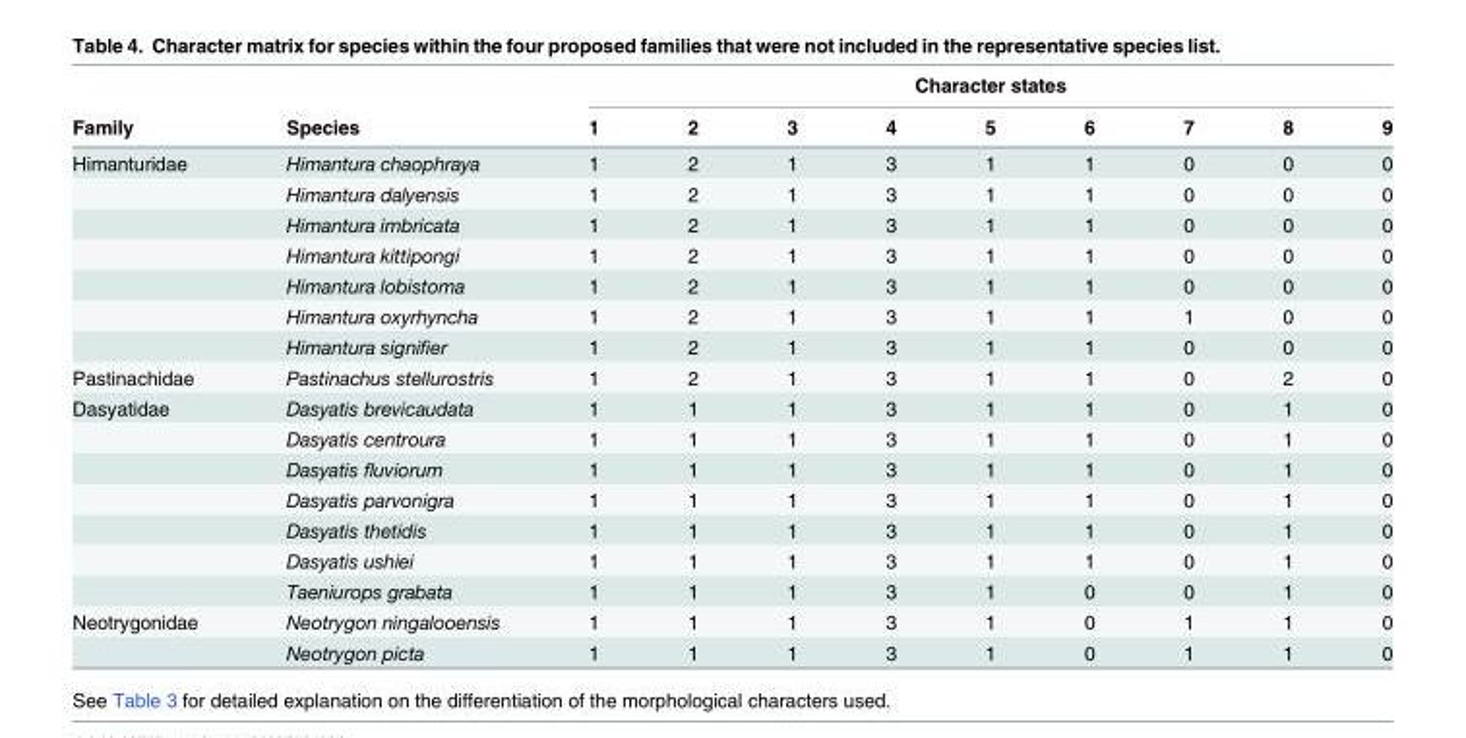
<table><thead><tr><td rowspan="2">Family</td><td rowspan="2">Species</td><td colspan="9">Character states</td></tr><tr><td>1</td><td>2</td><td>3</td><td>4</td><td>5</td><td>6</td><td>7</td><td>8</td><td>9</td></tr></thead><tbody><tr><td rowspan="7">Himanturidae</td><td>Himantura chaophraya</td><td>1</td><td>2</td><td>1</td><td>3</td><td>1</td><td>1</td><td>0</td><td>0</td><td>0</td></tr><tr><td>Himantura dalyensis</td><td>1</td><td>2</td><td>1</td><td>3</td><td>1</td><td>1</td><td>0</td><td>0</td><td>0</td></tr><tr><td>Himantura imbricata</td><td>1</td><td>2</td><td>1</td><td>3</td><td>1</td><td>1</td><td>0</td><td>0</td><td>0</td></tr><tr><td>Himantura kittipongi</td><td>1</td><td>2</td><td>1</td><td>3</td><td>1</td><td>1</td><td>0</td><td>0</td><td>0</td></tr><tr><td>Himantura lobistoma</td><td>1</td><td>2</td><td>1</td><td>3</td><td>1</td><td>1</td><td>0</td><td>0</td><td>0</td></tr><tr><td>Himantura oxyrhyncha</td><td>1</td><td>2</td><td>1</td><td>3</td><td>1</td><td>1</td><td>1</td><td>0</td><td>0</td></tr><tr><td>Himantura signifier</td><td>1</td><td>2</td><td>1</td><td>3</td><td>1</td><td>1</td><td>0</td><td>0</td><td>0</td></tr><tr><td>Pastinachidae</td><td>Pastinachus stellurostris</td><td>1</td><td>2</td><td>1</td><td>3</td><td>1</td><td>1</td><td>0</td><td>2</td><td>0</td></tr><tr><td rowspan="7">Dasyatidae</td><td>Dasyatis brevicaudata</td><td>1</td><td>1</td><td>1</td><td>3</td><td>1</td><td>1</td><td>0</td><td>1</td><td>0</td></tr><tr><td>Dasyatis centroura</td><td>1</td><td>1</td><td>1</td><td>3</td><td>1</td><td>1</td><td>0</td><td>1</td><td>0</td></tr><tr><td>Dasyatis fluviorum</td><td>1</td><td>1</td><td>1</td><td>3</td><td>1</td><td>1</td><td>0</td><td>1</td><td>0</td></tr><tr><td>Dasyatis parvonigra</td><td>1</td><td>1</td><td>1</td><td>3</td><td>1</td><td>1</td><td>0</td><td>1</td><td>0</td></tr><tr><td>Dasyatis thetidis</td><td>1</td><td>1</td><td>1</td><td>3</td><td>1</td><td>1</td><td>0</td><td>1</td><td>0</td></tr><tr><td>Dasyatis ushiei</td><td>1</td><td>1</td><td>1</td><td>3</td><td>1</td><td>1</td><td>0</td><td>1</td><td>0</td></tr><tr><td>Taeniurops grabata</td><td>1</td><td>1</td><td>1</td><td>3</td><td>1</td><td>0</td><td>0</td><td>1</td><td>0</td></tr><tr><td rowspan="2">Neotrygonidae</td><td>Neotrygon ningalooensis</td><td>1</td><td>1</td><td>1</td><td>3</td><td>1</td><td>0</td><td>1</td><td>1</td><td>0</td></tr><tr><td>Neotrygon picta</td><td>1</td><td>1</td><td>1</td><td>3</td><td>1</td><td>0</td><td>1</td><td>1</td><td>0</td></tr></tbody></table>